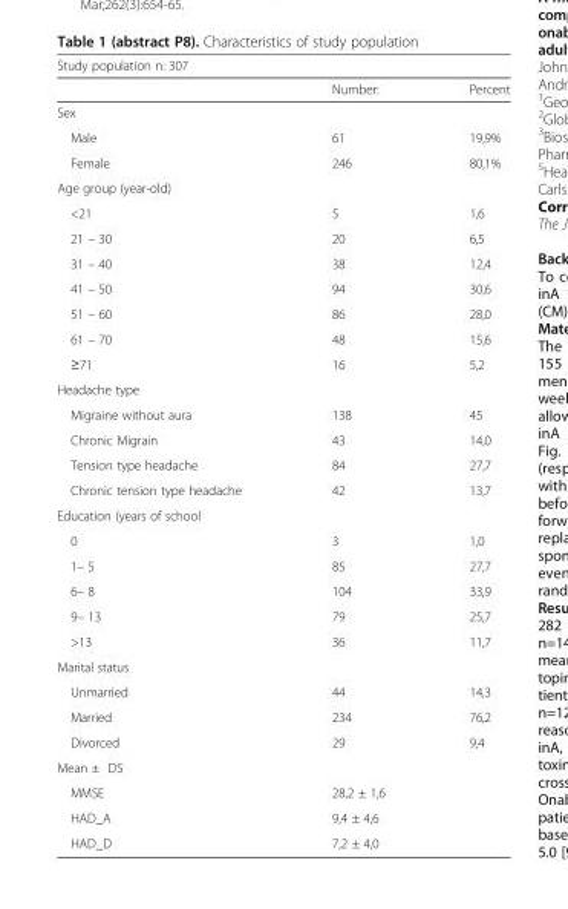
<table><thead><tr><td colspan="3">Study population n: 307</td></tr><tr><td></td><td>Number:</td><td>Percent</td></tr></thead><tbody><tr><td colspan="3">Sex</td></tr><tr><td>Male</td><td>61</td><td>19,9%</td></tr><tr><td>Female</td><td>246</td><td>80,1%</td></tr><tr><td colspan="3">Age group (year-old)</td></tr><tr><td>&lt;21</td><td>5</td><td>1,6</td></tr><tr><td>21 – 30</td><td>20</td><td>6,5</td></tr><tr><td>31 – 40</td><td>38</td><td>12,4</td></tr><tr><td>41 – 50</td><td>94</td><td>30,6</td></tr><tr><td>51 – 60</td><td>86</td><td>28,0</td></tr><tr><td>61 – 70</td><td>48</td><td>15,6</td></tr><tr><td>≥71</td><td>16</td><td>5,2</td></tr><tr><td colspan="3">Headache type</td></tr><tr><td>Migraine without aura</td><td>138</td><td>45</td></tr><tr><td>Chronic Migrain</td><td>43</td><td>14,0</td></tr><tr><td>Tension type headache</td><td>84</td><td>27,7</td></tr><tr><td>Chronic tension type headache</td><td>42</td><td>13,7</td></tr><tr><td colspan="3">Education (years of school</td></tr><tr><td>0</td><td>3</td><td>1,0</td></tr><tr><td>1– 5</td><td>85</td><td>27,7</td></tr><tr><td>6– 8</td><td>104</td><td>33,9</td></tr><tr><td>9– 13</td><td>79</td><td>25,7</td></tr><tr><td>&gt;13</td><td>36</td><td>11,7</td></tr><tr><td colspan="3">Marital status</td></tr><tr><td>Unmarried</td><td>44</td><td>14,3</td></tr><tr><td>Married</td><td>234</td><td>76,2</td></tr><tr><td>Divorced</td><td>29</td><td>9,4</td></tr><tr><td colspan="3">Mean ± DS</td></tr><tr><td>MMSE</td><td colspan="2">28,2 ± 1,6</td></tr><tr><td>HAD_A</td><td colspan="2">9,4 ± 4,6</td></tr><tr><td>HAD_D</td><td colspan="2">7,2 ± 4,0</td></tr></tbody></table>